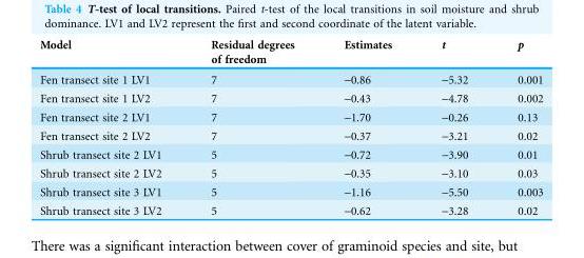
<table><thead><tr><td>Model</td><td>Residual degrees of freedom</td><td>Estimates</td><td>t</td><td>p</td></tr></thead><tbody><tr><td>Fen transect site 1 LV1</td><td>7</td><td>-0.86</td><td>-5.32</td><td>0.001</td></tr><tr><td>Fen transect site 1 LV2</td><td>7</td><td>-0.43</td><td>-4.78</td><td>0.002</td></tr><tr><td>Fen transect site 2 LV1</td><td>7</td><td>-1.70</td><td>-0.26</td><td>0.13</td></tr><tr><td>Fen transect site 2 LV2</td><td>7</td><td>-0.37</td><td>-3.21</td><td>0.02</td></tr><tr><td>Shrub transect site 2 LV1</td><td>5</td><td>-0.72</td><td>-3.90</td><td>0.01</td></tr><tr><td>Shrub transect site 2 LV2</td><td>5</td><td>-0.35</td><td>-3.10</td><td>0.03</td></tr><tr><td>Shrub transect site 3 LV1</td><td>5</td><td>-1.16</td><td>-5.50</td><td>0.003</td></tr><tr><td>Shrub transect site 3 LV2</td><td>5</td><td>-0.62</td><td>-3.28</td><td>0.02</td></tr></tbody></table>